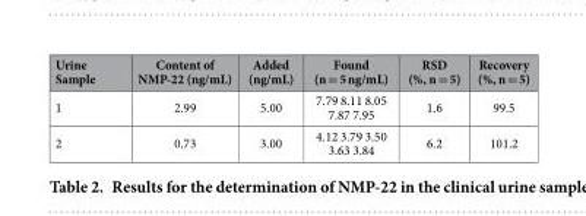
<table><thead><tr><td>Urine Sample</td><td>Content of NMP-22 (ng/mL)</td><td>Added (ng/mL)</td><td>Found (n = 5 ng/mL)</td><td>RSD (%, n = 5)</td><td>Recovery (%, n = 5)</td></tr></thead><tbody><tr><td>1</td><td>2.99</td><td>5.00</td><td>7.79 8.11 8.05 7.87 7.95</td><td>1.6</td><td>99.5</td></tr><tr><td>2</td><td>0.73</td><td>3.00</td><td>4.12 3.79 3.50 3.63 3.84</td><td>6.2</td><td>101.2</td></tr></tbody></table>